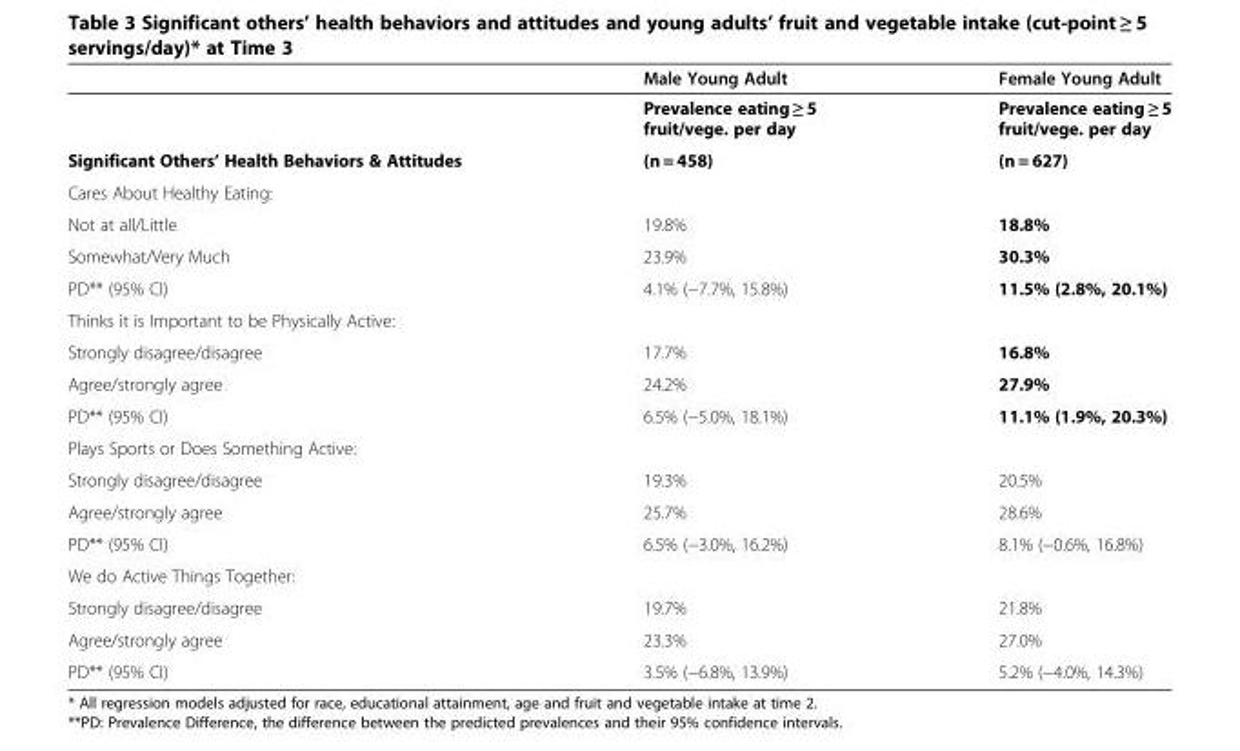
<table><thead><tr><td></td><td>Male Young Adult</td><td>Female Young Adult</td></tr></thead><tbody><tr><td></td><td>Prevalence eating ≥ 5 fruit/vege. per day</td><td>Prevalence eating ≥ 5 fruit/vege. per day</td></tr><tr><td>Significant Others’ Health Behaviors &amp; Attitudes</td><td>(n = 458)</td><td>(n = 627)</td></tr><tr><td colspan="3">Cares About Healthy Eating:</td></tr><tr><td>Not at all/Little</td><td>19.8%</td><td>18.8%</td></tr><tr><td>Somewhat/Very Much</td><td>23.9%</td><td>30.3%</td></tr><tr><td>PD** (95% CI)</td><td>4.1% (−7.7%, 15.8%)</td><td>11.5% (2.8%, 20.1%)</td></tr><tr><td colspan="3">Thinks it is Important to be Physically Active:</td></tr><tr><td>Strongly disagree/disagree</td><td>17.7%</td><td>16.8%</td></tr><tr><td>Agree/strongly agree</td><td>24.2%</td><td>27.9%</td></tr><tr><td>PD** (95% CI)</td><td>6.5% (−5.0%, 18.1%)</td><td>11.1% (1.9%, 20.3%)</td></tr><tr><td colspan="3">Plays Sports or Does Something Active:</td></tr><tr><td>Strongly disagree/disagree</td><td>19.3%</td><td>20.5%</td></tr><tr><td>Agree/strongly agree</td><td>25.7%</td><td>28.6%</td></tr><tr><td>PD** (95% CI)</td><td>6.5% (−3.0%, 16.2%)</td><td>8.1% (−0.6%, 16.8%)</td></tr><tr><td colspan="3">We do Active Things Together:</td></tr><tr><td>Strongly disagree/disagree</td><td>19.7%</td><td>21.8%</td></tr><tr><td>Agree/strongly agree</td><td>23.3%</td><td>27.0%</td></tr><tr><td>PD** (95% CI)</td><td>3.5% (−6.8%, 13.9%)</td><td>5.2% (−4.0%, 14.3%)</td></tr></tbody></table>